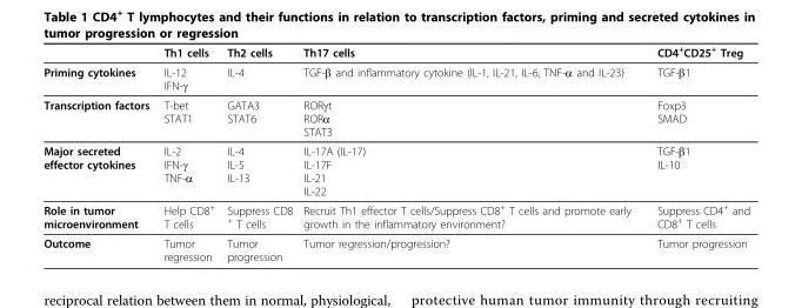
<table><thead><tr><td></td><td>Th1 cells</td><td>Th2 cells</td><td>Th17 cells</td><td>CD4<sup>+</sup>CD25<sup>+</sup> Treg</td></tr></thead><tbody><tr><td>Priming cytokines</td><td>IL-12 IFN-γ</td><td>IL-4</td><td>TGF-β and inflammatory cytokine (IL-1, IL-21, IL-6, TNF-α and IL-23)</td><td>TGF-β1</td></tr><tr><td>Transcription factors</td><td>T-bet STAT1</td><td>GATA3 STAT6</td><td>RORγt RORα STAT3</td><td>Foxp3 SMAD</td></tr><tr><td>Major secreted effector cytokines</td><td>IL-2 IFN-γ TNF-α</td><td>IL-4 IL-5 IL-13</td><td>IL-17A (IL-17) IL-17F IL-21 IL-22</td><td>TGF-β1 IL-10</td></tr><tr><td>Role in tumor microenvironment</td><td>Help CD8<sup>+</sup> T cells</td><td>Suppress CD8 <sup>+</sup> T cells</td><td>Recruit Th1 effector T cells/Suppress CD8<sup>+</sup> T cells and promote early growth in the inflammatory environment?</td><td>Suppress CD4<sup>+</sup> and CD8<sup>+</sup> T cells</td></tr><tr><td>Outcome</td><td>Tumor regression</td><td>Tumor progression</td><td>Tumor regression/progression?</td><td>Tumor progression</td></tr></tbody></table>